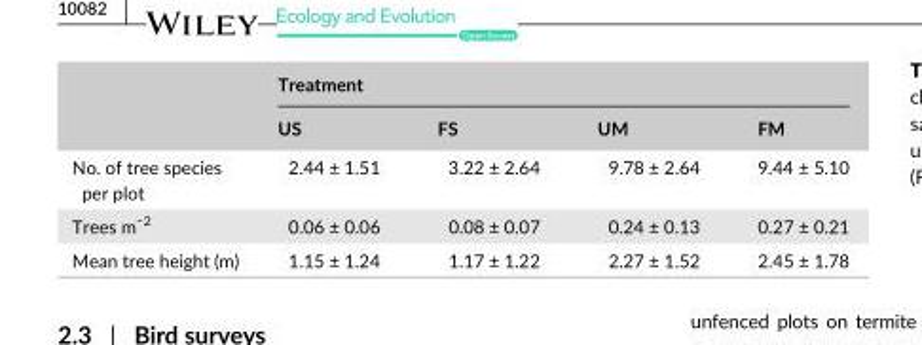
<table><thead><tr><td rowspan="2"></td><td colspan="4">Treatment</td></tr><tr><td>US</td><td>FS</td><td>UM</td><td>FM</td></tr></thead><tbody><tr><td>No. of tree species per plot</td><td>2.44 ± 1.51</td><td>3.22 ± 2.64</td><td>9.78 ± 2.64</td><td>9.44 ± 5.10</td></tr><tr><td>Trees m<sup>−2</sup></td><td>0.06 ± 0.06</td><td>0.08 ± 0.07</td><td>0.24 ± 0.13</td><td>0.27 ± 0.21</td></tr><tr><td>Mean tree height (m)</td><td>1.15 ± 1.24</td><td>1.17 ± 1.22</td><td>2.27 ± 1.52</td><td>2.45 ± 1.78</td></tr></tbody></table>